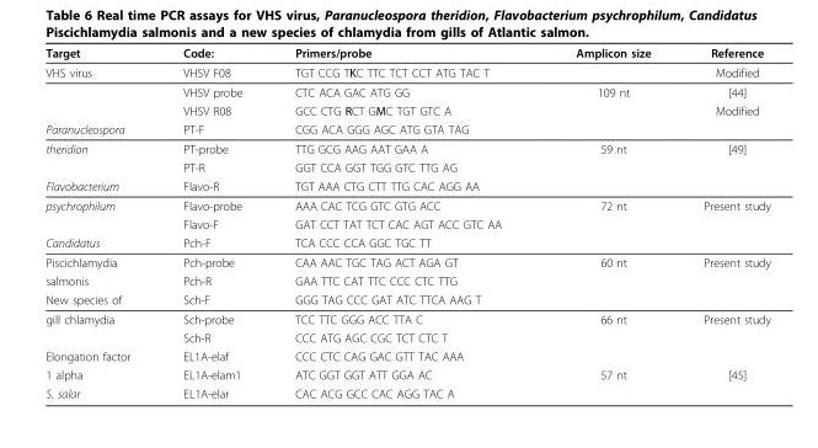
<table><thead><tr><td>Target</td><td>Code:</td><td>Primers/probe</td><td>Amplicon size</td><td>Reference</td></tr></thead><tbody><tr><td rowspan="3">VHS virus</td><td>VHSV F08</td><td>TGT CCG TKC TTC TCT CCT ATG TAC T</td><td></td><td>Modified</td></tr><tr><td>VHSV probe</td><td>CTC ACA GAC ATG GG</td><td>109 nt</td><td>[44]</td></tr><tr><td>VHSV R08</td><td>GCC CTG RCT GMC TGT GTC A</td><td></td><td>Modified</td></tr><tr><td>Paranucleospora</td><td>PT-F</td><td>CGG ACA GGG AGC ATG GTA TAG</td><td></td><td></td></tr><tr><td rowspan="2">theridion</td><td>PT-probe</td><td>TTG GCG AAG AAT GAA A</td><td>59 nt</td><td>[49]</td></tr><tr><td>PT-R</td><td>GGT CCA GGT TGG GTC TTG AG</td><td></td><td></td></tr><tr><td>Flavobacterium</td><td>Flavo-R</td><td>TGT AAA CTG CTT TTG CAC AGG AA</td><td></td><td></td></tr><tr><td rowspan="2">psychrophilum</td><td>Flavo-probe</td><td>AAA CAC TCG GTC GTG ACC</td><td>72 nt</td><td>Present study</td></tr><tr><td>Flavo-F</td><td>GAT CCT TAT TCT CAC AGT ACC GTC AA</td><td></td><td></td></tr><tr><td>Candidatus</td><td>Pch-F</td><td>TCA CCC CCA GGC TGC TT</td><td></td><td></td></tr><tr><td>Piscichlamydia</td><td>Pch-probe</td><td>CAA AAC TGC TAG ACT AGA GT</td><td>60 nt</td><td>Present study</td></tr><tr><td>salmonis</td><td>Pch-R</td><td>GAA TTC CAT TTC CCC CTC TTG</td><td></td><td></td></tr><tr><td>New species of</td><td>Sch-F</td><td>GGG TAG CCC GAT ATC TTCA AAG T</td><td></td><td></td></tr><tr><td rowspan="2">gill chlamydia</td><td>Sch-probe</td><td>TCC TTC GGG ACC TTA C</td><td>66 nt</td><td>Present study</td></tr><tr><td>Sch-R</td><td>CCC ATG AGC CGC TCT CTC T</td><td></td><td></td></tr><tr><td>Elongation factor</td><td>EL1A-elaf</td><td>CCC CTC CAG GAC GTT TAC AAA</td><td></td><td></td></tr><tr><td>1 alpha</td><td>EL1A-elam1</td><td>ATC GGT GGT ATT GGA AC</td><td>57 nt</td><td>[45]</td></tr><tr><td>S. salar</td><td>EL1A-elar</td><td>CAC ACG GCC CAC AGG TAC A</td><td></td><td></td></tr></tbody></table>